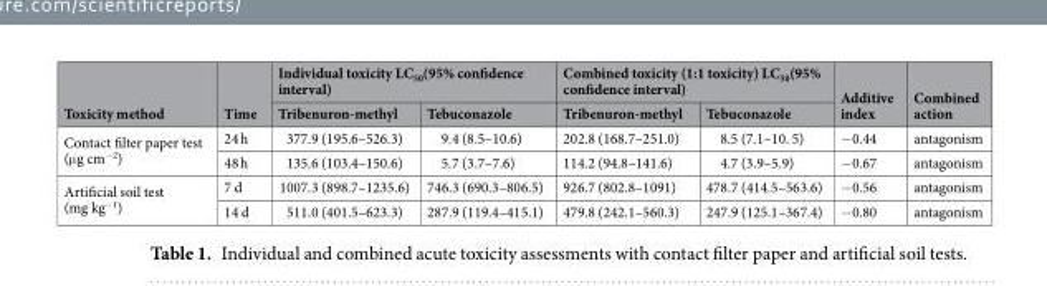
<table><thead><tr><td rowspan="2">Toxicity method</td><td rowspan="2">Time</td><td colspan="2">Individual toxicity LC<sub>50</sub>(95% confidence interval)</td><td colspan="2">Combined toxicity (1:1 toxicity) LC<sub>50</sub>(95% confidence interval)</td><td rowspan="2">Additive index</td><td rowspan="2">Combined action</td></tr><tr><td>Tribenuron-methyl</td><td>Tebuconazole</td><td>Tribenuron-methyl</td><td>Tebuconazole</td></tr></thead><tbody><tr><td rowspan="2">Contact filter paper test (μg cm<sup>−2</sup>)</td><td>24 h</td><td>377.9 (195.6–526.3)</td><td>9.4 (8.5–10.6)</td><td>202.8 (168.7–251.0)</td><td>8.5 (7.1–10. 5)</td><td>−0.44</td><td>antagonism</td></tr><tr><td>48 h</td><td>135.6 (103.4–150.6)</td><td>5.7 (3.7–7.6)</td><td>114.2 (94.8–141.6)</td><td>4.7 (3.9–5.9)</td><td>−0.67</td><td>antagonism</td></tr><tr><td rowspan="2">Artificial soil test (mg kg<sup>−1</sup>)</td><td>7 d</td><td>1007.3 (898.7–1235.6)</td><td>746.3 (690.3–806.5)</td><td>926.7 (802.8–1091)</td><td>478.7 (414.5–563.6)</td><td>−0.56</td><td>antagonism</td></tr><tr><td>14 d</td><td>511.0 (401.5–623.3)</td><td>287.9 (119.4–415.1)</td><td>479.8 (242.1–560.3)</td><td>247.9 (125.1–367.4)</td><td>−0.80</td><td>antagonism</td></tr></tbody></table>